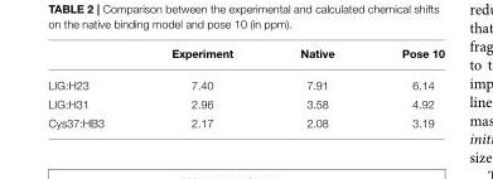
<table><thead><tr><td></td><td>Experiment</td><td>Native</td><td>Pose 10</td></tr></thead><tbody><tr><td>LIG:H23</td><td>7.40</td><td>7.91</td><td>6.14</td></tr><tr><td>LIG:H31</td><td>2.96</td><td>3.58</td><td>4.92</td></tr><tr><td>Cys37:HB3</td><td>2.17</td><td>2.08</td><td>3.19</td></tr></tbody></table>